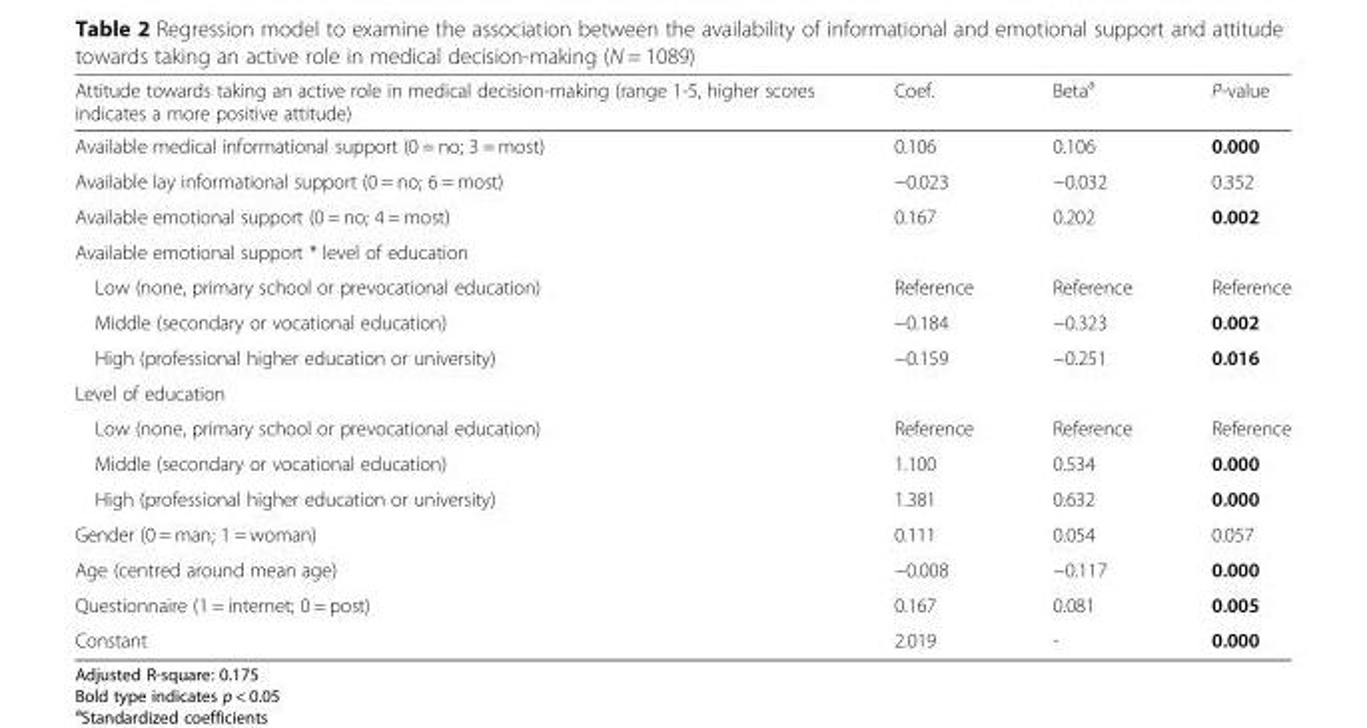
<table><thead><tr><td>Attitude towards taking an active role in medical decision-making (range 1-5, higher scores indicates a more positive attitude)</td><td>Coef.</td><td>Beta<sup>a</sup></td><td>P-value</td></tr></thead><tbody><tr><td>Available medical informational support (0 = no; 3 = most)</td><td>0.106</td><td>0.106</td><td>0.000</td></tr><tr><td>Available lay informational support (0 = no; 6 = most)</td><td>−0.023</td><td>−0.032</td><td>0.352</td></tr><tr><td>Available emotional support (0 = no; 4 = most)</td><td>0.167</td><td>0.202</td><td>0.002</td></tr><tr><td colspan="4">Available emotional support * level of education</td></tr><tr><td>Low (none, primary school or prevocational education)</td><td>Reference</td><td>Reference</td><td>Reference</td></tr><tr><td>Middle (secondary or vocational education)</td><td>−0.184</td><td>−0.323</td><td>0.002</td></tr><tr><td>High (professional higher education or university)</td><td>−0.159</td><td>−0.251</td><td>0.016</td></tr><tr><td colspan="4">Level of education</td></tr><tr><td>Low (none, primary school or prevocational education)</td><td>Reference</td><td>Reference</td><td>Reference</td></tr><tr><td>Middle (secondary or vocational education)</td><td>1.100</td><td>0.534</td><td>0.000</td></tr><tr><td>High (professional higher education or university)</td><td>1.381</td><td>0.632</td><td>0.000</td></tr><tr><td>Gender (0 = man; 1 = woman)</td><td>0.111</td><td>0.054</td><td>0.057</td></tr><tr><td>Age (centred around mean age)</td><td>−0.008</td><td>−0.117</td><td>0.000</td></tr><tr><td>Questionnaire (1 = internet; 0 = post)</td><td>0.167</td><td>0.081</td><td>0.005</td></tr><tr><td>Constant</td><td>2.019</td><td>-</td><td>0.000</td></tr></tbody></table>